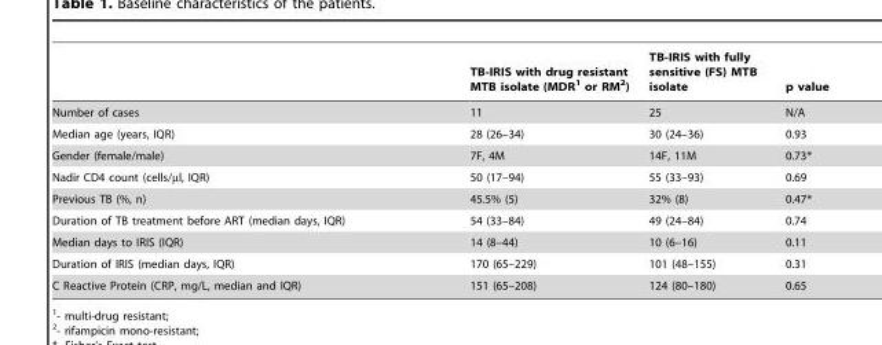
<table><thead><tr><td></td><td>TB-IRIS with drug resistant MTB isolate (MDR<sup>1</sup> or RM<sup>2</sup>)</td><td>TB-IRIS with fully sensitive (FS) MTB isolate</td><td>p value</td></tr></thead><tbody><tr><td>Number of cases</td><td>11</td><td>25</td><td>N/A</td></tr><tr><td>Median age (years, IQR)</td><td>28 (26–34)</td><td>30 (24–36)</td><td>0.93</td></tr><tr><td>Gender (female/male)</td><td>7F, 4M</td><td>14F, 11M</td><td>0.73*</td></tr><tr><td>Nadir CD4 count (cells/µl, IQR)</td><td>50 (17–94)</td><td>55 (33–93)</td><td>0.69</td></tr><tr><td>Previous TB (%, n)</td><td>45.5% (5)</td><td>32% (8)</td><td>0.47*</td></tr><tr><td>Duration of TB treatment before ART (median days, IQR)</td><td>54 (33–84)</td><td>49 (24–84)</td><td>0.74</td></tr><tr><td>Median days to IRIS (IQR)</td><td>14 (8–44)</td><td>10 (6–16)</td><td>0.11</td></tr><tr><td>Duration of IRIS (median days, IQR)</td><td>170 (65–229)</td><td>101 (48–155)</td><td>0.31</td></tr><tr><td>C Reactive Protein (CRP, mg/L, median and IQR)</td><td>151 (65–208)</td><td>124 (80–180)</td><td>0.65</td></tr></tbody></table>